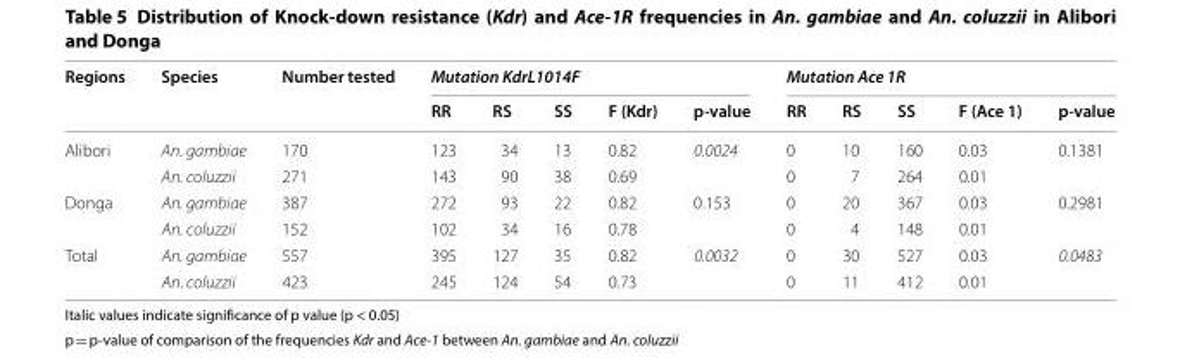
<table><thead><tr><td rowspan="2">Regions</td><td rowspan="2">Species</td><td rowspan="2">Number tested</td><td colspan="5">Mutation KdrL1014F</td><td colspan="5">Mutation Ace 1R</td></tr><tr><td>RR</td><td>RS</td><td>SS</td><td>F (Kdr)</td><td>p‑value</td><td>RR</td><td>RS</td><td>SS</td><td>F (Ace 1)</td><td>p‑value</td></tr></thead><tbody><tr><td rowspan="2">Alibori</td><td>An. gambiae</td><td>170</td><td>123</td><td>34</td><td>13</td><td>0.82</td><td rowspan="2">0.0024</td><td>0</td><td>10</td><td>160</td><td>0.03</td><td rowspan="2">0.1381</td></tr><tr><td>An. coluzzii</td><td>271</td><td>143</td><td>90</td><td>38</td><td>0.69</td><td>0</td><td>7</td><td>264</td><td>0.01</td></tr><tr><td rowspan="2">Donga</td><td>An. gambiae</td><td>387</td><td>272</td><td>93</td><td>22</td><td>0.82</td><td rowspan="2">0.153</td><td>0</td><td>20</td><td>367</td><td>0.03</td><td rowspan="2">0.2981</td></tr><tr><td>An. coluzzii</td><td>152</td><td>102</td><td>34</td><td>16</td><td>0.78</td><td>0</td><td>4</td><td>148</td><td>0.01</td></tr><tr><td rowspan="2">Total</td><td>An. gambiae</td><td>557</td><td>395</td><td>127</td><td>35</td><td>0.82</td><td rowspan="2">0.0032</td><td>0</td><td>30</td><td>527</td><td>0.03</td><td rowspan="2">0.0483</td></tr><tr><td>An. coluzzii</td><td>423</td><td>245</td><td>124</td><td>54</td><td>0.73</td><td>0</td><td>11</td><td>412</td><td>0.01</td></tr></tbody></table>